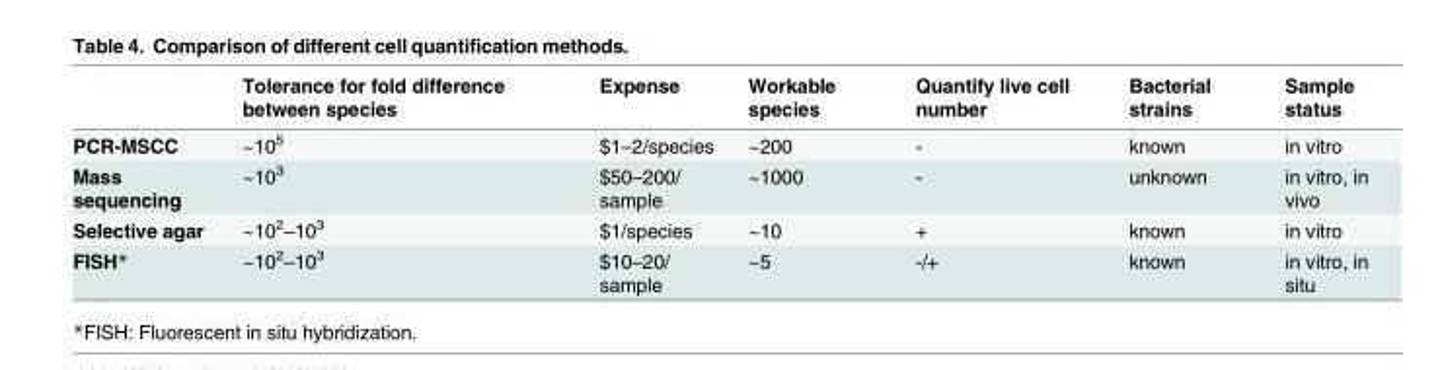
<table><thead><tr><td></td><td>Tolerance for fold difference between species</td><td>Expense</td><td>Workable species</td><td>Quantify live cell number</td><td>Bacterial strains</td><td>Sample status</td></tr></thead><tbody><tr><td>PCR-MSCC</td><td>~10<sup>5</sup></td><td>$1–2/species</td><td>~200</td><td>-</td><td>known</td><td>in vitro</td></tr><tr><td>Mass sequencing</td><td>~10<sup>3</sup></td><td>$50–200/ sample</td><td>~1000</td><td>-</td><td>unknown</td><td>in vitro, in vivo</td></tr><tr><td>Selective agar</td><td>~10<sup>2</sup>–10<sup>3</sup></td><td>$1/species</td><td>~10</td><td>+</td><td>known</td><td>in vitro</td></tr><tr><td>FISH*</td><td>~10<sup>2</sup>–10<sup>3</sup></td><td>$10–20/ sample</td><td>~5</td><td>-/+</td><td>known</td><td>in vitro, in situ</td></tr></tbody></table>